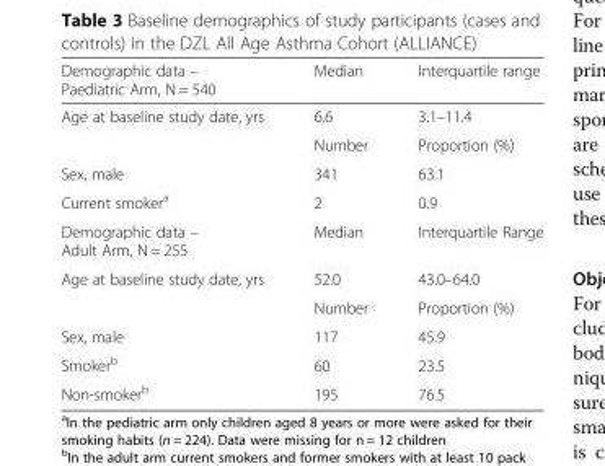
<table><thead><tr><td>Demographic data – Paediatric Arm, N = 540</td><td>Median</td><td>Interquartile range</td></tr></thead><tbody><tr><td rowspan="2">Age at baseline study date, yrs</td><td>6.6</td><td>3.1–11.4</td></tr><tr><td>Number</td><td>Proportion (%)</td></tr><tr><td>Sex, male</td><td>341</td><td>63.1</td></tr><tr><td>Current smoker<sup>a</sup></td><td>2</td><td>0.9</td></tr><tr><td>Demographic data – Adult Arm, N = 255</td><td>Median</td><td>Interquartile Range</td></tr><tr><td rowspan="2">Age at baseline study date, yrs</td><td>52.0</td><td>43.0–64.0</td></tr><tr><td>Number</td><td>Proportion (%)</td></tr><tr><td>Sex, male</td><td>117</td><td>45.9</td></tr><tr><td>Smoker<sup>b</sup></td><td>60</td><td>23.5</td></tr><tr><td>Non-smoker<sup>b</sup></td><td>195</td><td>76.5</td></tr></tbody></table>